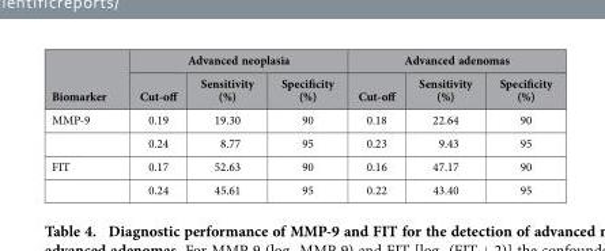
<table><thead><tr><td rowspan="2">Biomarker</td><td colspan="3">Advanced neoplasia</td><td colspan="3">Advanced adenomas</td></tr><tr><td>Cut-off</td><td>Sensitivity (%)</td><td>Specificity (%)</td><td>Cut-off</td><td>Sensitivity (%)</td><td>Specificity (%)</td></tr></thead><tbody><tr><td rowspan="2">MMP-9</td><td>0.19</td><td>19.30</td><td>90</td><td>0.18</td><td>22.64</td><td>90</td></tr><tr><td>0.24</td><td>8.77</td><td>95</td><td>0.23</td><td>9.43</td><td>95</td></tr><tr><td rowspan="2">FIT</td><td>0.17</td><td>52.63</td><td>90</td><td>0.16</td><td>47.17</td><td>90</td></tr><tr><td>0.24</td><td>45.61</td><td>95</td><td>0.22</td><td>43.40</td><td>95</td></tr></tbody></table>